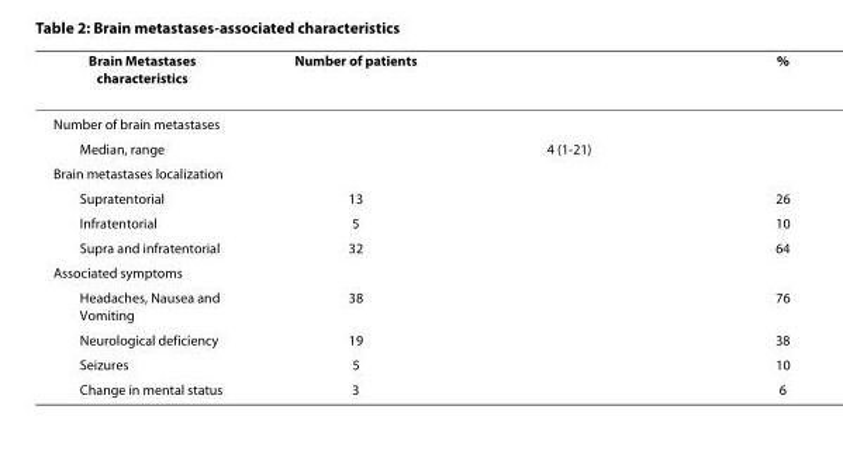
<table><thead><tr><td>Brain Metastases characteristics</td><td>Number of patients</td><td></td><td>%</td></tr></thead><tbody><tr><td colspan="4">Number of brain metastases</td></tr><tr><td>Median, range</td><td></td><td>4 (1-21)</td><td></td></tr><tr><td colspan="4">Brain metastases localization</td></tr><tr><td>Supratentorial</td><td>13</td><td></td><td>26</td></tr><tr><td>Infratentorial</td><td>5</td><td></td><td>10</td></tr><tr><td>Supra and infratentorial</td><td>32</td><td></td><td>64</td></tr><tr><td colspan="4">Associated symptoms</td></tr><tr><td>Headaches, Nausea and Vomiting</td><td>38</td><td></td><td>76</td></tr><tr><td>Neurological deficiency</td><td>19</td><td></td><td>38</td></tr><tr><td>Seizures</td><td>5</td><td></td><td>10</td></tr><tr><td>Change in mental status</td><td>3</td><td></td><td>6</td></tr></tbody></table>